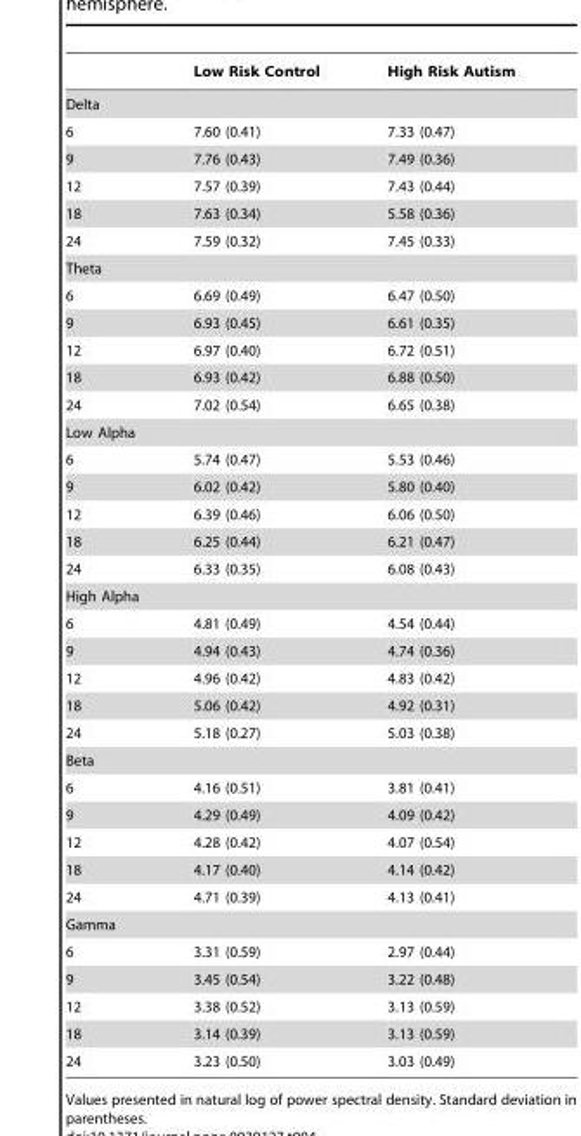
<table><thead><tr><td></td><td>Low Risk Control</td><td>High Risk Autism</td></tr></thead><tbody><tr><td colspan="3">Delta</td></tr><tr><td>6</td><td>7.60 (0.41)</td><td>7.33 (0.47)</td></tr><tr><td>9</td><td>7.76 (0.43)</td><td>7.49 (0.36)</td></tr><tr><td>12</td><td>7.57 (0.39)</td><td>7.43 (0.44)</td></tr><tr><td>18</td><td>7.63 (0.34)</td><td>5.58 (0.36)</td></tr><tr><td>24</td><td>7.59 (0.32)</td><td>7.45 (0.33)</td></tr><tr><td colspan="3">Theta</td></tr><tr><td>6</td><td>6.69 (0.49)</td><td>6.47 (0.50)</td></tr><tr><td>9</td><td>6.93 (0.45)</td><td>6.61 (0.35)</td></tr><tr><td>12</td><td>6.97 (0.40)</td><td>6.72 (0.51)</td></tr><tr><td>18</td><td>6.93 (0.42)</td><td>6.88 (0.50)</td></tr><tr><td>24</td><td>7.02 (0.54)</td><td>6.65 (0.38)</td></tr><tr><td colspan="3">Low Alpha</td></tr><tr><td>6</td><td>5.74 (0.47)</td><td>5.53 (0.46)</td></tr><tr><td>9</td><td>6.02 (0.42)</td><td>5.80 (0.40)</td></tr><tr><td>12</td><td>6.39 (0.46)</td><td>6.06 (0.50)</td></tr><tr><td>18</td><td>6.25 (0.44)</td><td>6.21 (0.47)</td></tr><tr><td>24</td><td>6.33 (0.35)</td><td>6.08 (0.43)</td></tr><tr><td colspan="3">High Alpha</td></tr><tr><td>6</td><td>4.81 (0.49)</td><td>4.54 (0.44)</td></tr><tr><td>9</td><td>4.94 (0.43)</td><td>4.74 (0.36)</td></tr><tr><td>12</td><td>4.96 (0.42)</td><td>4.83 (0.42)</td></tr><tr><td>18</td><td>5.06 (0.42)</td><td>4.92 (0.31)</td></tr><tr><td>24</td><td>5.18 (0.27)</td><td>5.03 (0.38)</td></tr><tr><td colspan="3">Beta</td></tr><tr><td>6</td><td>4.16 (0.51)</td><td>3.81 (0.41)</td></tr><tr><td>9</td><td>4.29 (0.49)</td><td>4.09 (0.42)</td></tr><tr><td>12</td><td>4.28 (0.42)</td><td>4.07 (0.54)</td></tr><tr><td>18</td><td>4.17 (0.40)</td><td>4.14 (0.42)</td></tr><tr><td>24</td><td>4.71 (0.39)</td><td>4.13 (0.41)</td></tr><tr><td colspan="3">Gamma</td></tr><tr><td>6</td><td>3.31 (0.59)</td><td>2.97 (0.44)</td></tr><tr><td>9</td><td>3.45 (0.54)</td><td>3.22 (0.48)</td></tr><tr><td>12</td><td>3.38 (0.52)</td><td>3.13 (0.59)</td></tr><tr><td>18</td><td>3.14 (0.39)</td><td>3.13 (0.59)</td></tr><tr><td>24</td><td>3.23 (0.50)</td><td>3.03 (0.49)</td></tr></tbody></table>